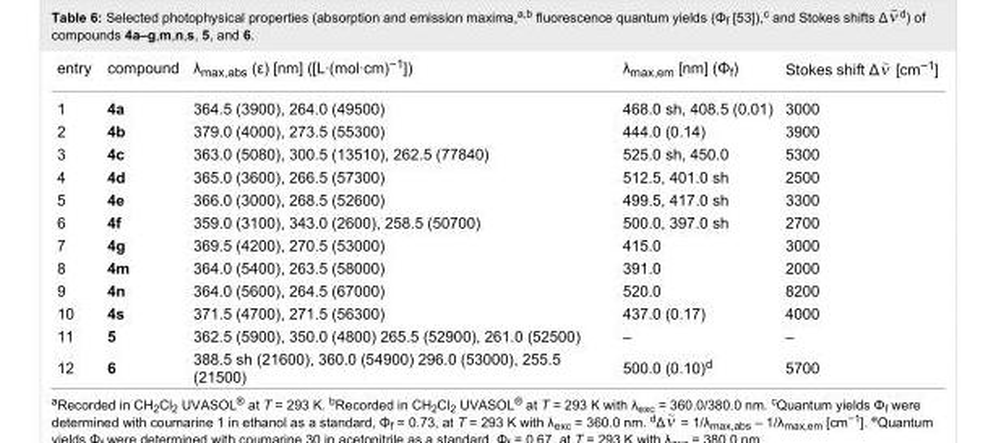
<table><tbody><tr><td>entry</td><td>compound</td><td>λ<sub>max,abs</sub> (ε) [nm] ([L∙(mol∙cm)<sup>−1</sup>])</td><td>λ<sub>max,em</sub> [nm] (Φ<sub>f</sub>)</td><td>Stokes shift Δ [cm<sup>−1</sup>]</td></tr><tr><td>1</td><td>4a</td><td>364.5 (3900), 264.0 (49500)</td><td>468.0 sh, 408.5 (0.01)</td><td>3000</td></tr><tr><td>2</td><td>4b</td><td>379.0 (4000), 273.5 (55300)</td><td>444.0 (0.14)</td><td>3900</td></tr><tr><td>3</td><td>4c</td><td>363.0 (5080), 300.5 (13510), 262.5 (77840)</td><td>525.0 sh, 450.0</td><td>5300</td></tr><tr><td>4</td><td>4d</td><td>365.0 (3600), 266.5 (57300)</td><td>512.5, 401.0 sh</td><td>2500</td></tr><tr><td>5</td><td>4e</td><td>366.0 (3000), 268.5 (52600)</td><td>499.5, 417.0 sh</td><td>3300</td></tr><tr><td>6</td><td>4f</td><td>359.0 (3100), 343.0 (2600), 258.5 (50700)</td><td>500.0, 397.0 sh</td><td>2700</td></tr><tr><td>7</td><td>4g</td><td>369.5 (4200), 270.5 (53000)</td><td>415.0</td><td>3000</td></tr><tr><td>8</td><td>4m</td><td>364.0 (5400), 263.5 (58000)</td><td>391.0</td><td>2000</td></tr><tr><td>9</td><td>4n</td><td>364.0 (5600), 264.5 (67000)</td><td>520.0</td><td>8200</td></tr><tr><td>10</td><td>4s</td><td>371.5 (4700), 271.5 (56300)</td><td>437.0 (0.17)</td><td>4000</td></tr><tr><td>11</td><td>5</td><td>362.5 (5900), 350.0 (4800) 265.5 (52900), 261.0 (52500)</td><td>–</td><td>–</td></tr><tr><td>12</td><td>6</td><td>388.5 sh (21600), 360.0 (54900) 296.0 (53000), 255.5 (21500)</td><td>500.0 (0.10)<sup>d</sup></td><td>5700</td></tr></tbody></table>